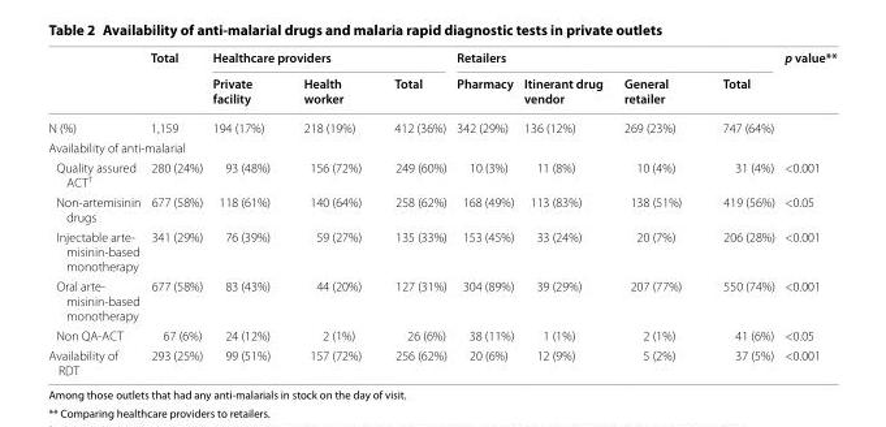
<table><thead><tr><td rowspan="2"></td><td rowspan="2">Total</td><td colspan="3">Healthcare providers</td><td colspan="4">Retailers</td><td rowspan="2">p value**</td></tr><tr><td>Private facility</td><td>Health worker</td><td>Total</td><td>Pharmacy</td><td>Itinerant drug vendor</td><td>General retailer</td><td>Total</td></tr></thead><tbody><tr><td>N (%)</td><td>1,159</td><td>194 (17%)</td><td>218 (19%)</td><td>412 (36%)</td><td>342 (29%)</td><td>136 (12%)</td><td>269 (23%)</td><td>747 (64%)</td><td></td></tr><tr><td colspan="10">Availability of anti-malarial</td></tr><tr><td>Quality assured ACT<sup>†</sup></td><td>280 (24%)</td><td>93 (48%)</td><td>156 (72%)</td><td>249 (60%)</td><td>10 (3%)</td><td>11 (8%)</td><td>10 (4%)</td><td>31 (4%)</td><td>&lt;0.001</td></tr><tr><td>Non-artemisinin drugs</td><td>677 (58%)</td><td>118 (61%)</td><td>140 (64%)</td><td>258 (62%)</td><td>168 (49%)</td><td>113 (83%)</td><td>138 (51%)</td><td>419 (56%)</td><td>&lt;0.05</td></tr><tr><td>Injectable arte- misinin-based monotherapy</td><td>341 (29%)</td><td>76 (39%)</td><td>59 (27%)</td><td>135 (33%)</td><td>153 (45%)</td><td>33 (24%)</td><td>20 (7%)</td><td>206 (28%)</td><td>&lt;0.001</td></tr><tr><td>Oral arte- misinin-based monotherapy</td><td>677 (58%)</td><td>83 (43%)</td><td>44 (20%)</td><td>127 (31%)</td><td>304 (89%)</td><td>39 (29%)</td><td>207 (77%)</td><td>550 (74%)</td><td>&lt;0.001</td></tr><tr><td>Non QA-ACT</td><td>67 (6%)</td><td>24 (12%)</td><td>2 (1%)</td><td>26 (6%)</td><td>38 (11%)</td><td>1 (1%)</td><td>2 (1%)</td><td>41 (6%)</td><td>&lt;0.05</td></tr><tr><td>Availability of RDT</td><td>293 (25%)</td><td>99 (51%)</td><td>157 (72%)</td><td>256 (62%)</td><td>20 (6%)</td><td>12 (9%)</td><td>5 (2%)</td><td>37 (5%)</td><td>&lt;0.001</td></tr></tbody></table>